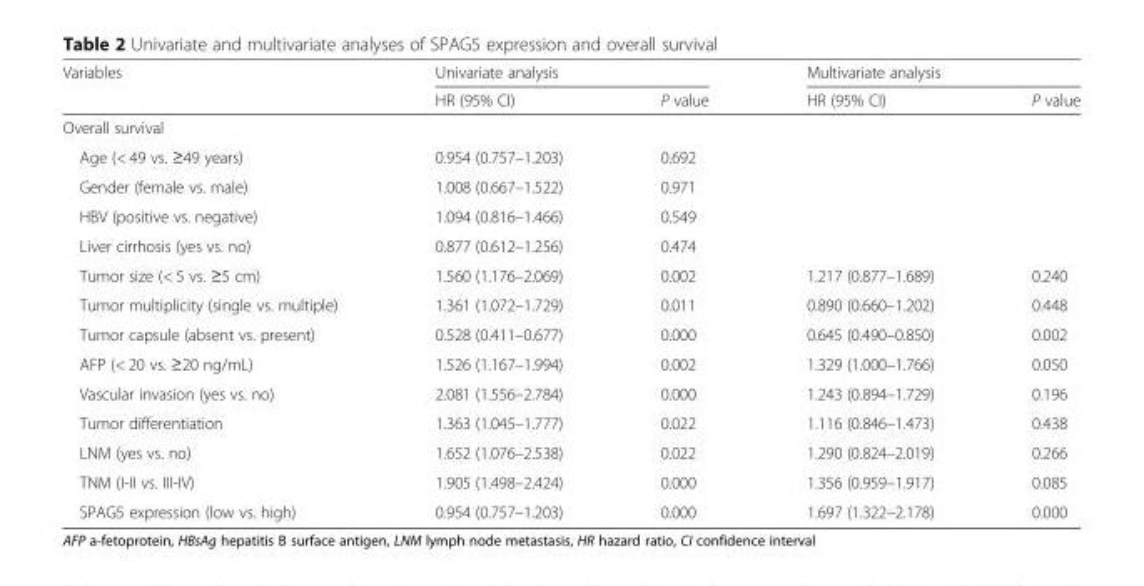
<table><thead><tr><td rowspan="2">Variables</td><td colspan="2">Univariate analysis</td><td colspan="2">Multivariate analysis</td></tr><tr><td>HR (95% CI)</td><td>P value</td><td>HR (95% CI)</td><td>P value</td></tr></thead><tbody><tr><td colspan="5">Overall survival</td></tr><tr><td>Age (&lt; 49 vs. ≥49 years)</td><td>0.954 (0.757–1.203)</td><td>0.692</td><td></td><td></td></tr><tr><td>Gender (female vs. male)</td><td>1.008 (0.667–1.522)</td><td>0.971</td><td></td><td></td></tr><tr><td>HBV (positive vs. negative)</td><td>1.094 (0.816–1.466)</td><td>0.549</td><td></td><td></td></tr><tr><td>Liver cirrhosis (yes vs. no)</td><td>0.877 (0.612–1.256)</td><td>0.474</td><td></td><td></td></tr><tr><td>Tumor size (&lt; 5 vs. ≥5 cm)</td><td>1.560 (1.176–2.069)</td><td>0.002</td><td>1.217 (0.877–1.689)</td><td>0.240</td></tr><tr><td>Tumor multiplicity (single vs. multiple)</td><td>1.361 (1.072–1.729)</td><td>0.011</td><td>0.890 (0.660–1.202)</td><td>0.448</td></tr><tr><td>Tumor capsule (absent vs. present)</td><td>0.528 (0.411–0.677)</td><td>0.000</td><td>0.645 (0.490–0.850)</td><td>0.002</td></tr><tr><td>AFP (&lt; 20 vs. ≥20 ng/mL)</td><td>1.526 (1.167–1.994)</td><td>0.002</td><td>1.329 (1.000–1.766)</td><td>0.050</td></tr><tr><td>Vascular invasion (yes vs. no)</td><td>2.081 (1.556–2.784)</td><td>0.000</td><td>1.243 (0.894–1.729)</td><td>0.196</td></tr><tr><td>Tumor differentiation</td><td>1.363 (1.045–1.777)</td><td>0.022</td><td>1.116 (0.846–1.473)</td><td>0.438</td></tr><tr><td>LNM (yes vs. no)</td><td>1.652 (1.076–2.538)</td><td>0.022</td><td>1.290 (0.824–2.019)</td><td>0.266</td></tr><tr><td>TNM (I-II vs. III-IV)</td><td>1.905 (1.498–2.424)</td><td>0.000</td><td>1.356 (0.959–1.917)</td><td>0.085</td></tr><tr><td>SPAG5 expression (low vs. high)</td><td>0.954 (0.757–1.203)</td><td>0.000</td><td>1.697 (1.322–2.178)</td><td>0.000</td></tr></tbody></table>